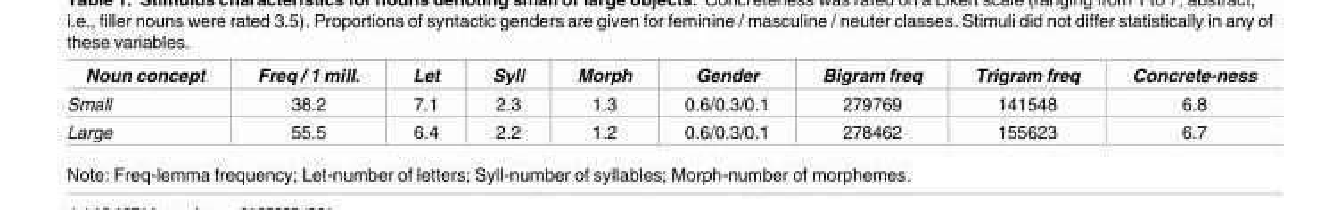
<table><thead><tr><td>Noun concept</td><td>Freq / 1 mill.</td><td>Let</td><td>Syll</td><td>Morph</td><td>Gender</td><td>Bigram freq</td><td>Trigram freq</td><td>Concrete-ness</td></tr></thead><tbody><tr><td>Small</td><td>38.2</td><td>7.1</td><td>2.3</td><td>1.3</td><td>0.6/0.3/0.1</td><td>279769</td><td>141548</td><td>6.8</td></tr><tr><td>Large</td><td>55.5</td><td>6.4</td><td>2.2</td><td>1.2</td><td>0.6/0.3/0.1</td><td>278462</td><td>155623</td><td>6.7</td></tr></tbody></table>